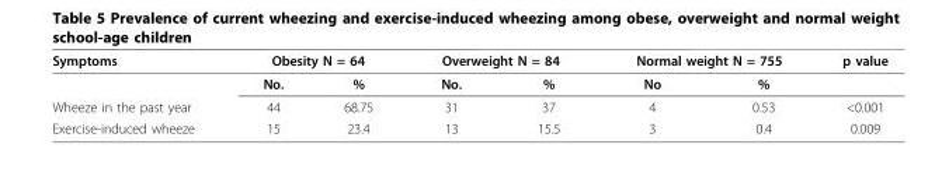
<table><thead><tr><td rowspan="2">Symptoms</td><td colspan="2">Obesity N = 64</td><td colspan="2">Overweight N = 84</td><td colspan="2">Normal weight N = 755</td><td rowspan="2">p value</td></tr><tr><td>No.</td><td>%</td><td>No.</td><td>%</td><td>No</td><td>%</td></tr></thead><tbody><tr><td>Wheeze in the past year</td><td>44</td><td>68.75</td><td>31</td><td>37</td><td>4</td><td>0.53</td><td>&lt;0.001</td></tr><tr><td>Exercise-induced wheeze</td><td>15</td><td>23.4</td><td>13</td><td>15.5</td><td>3</td><td>0.4</td><td>0.009</td></tr></tbody></table>